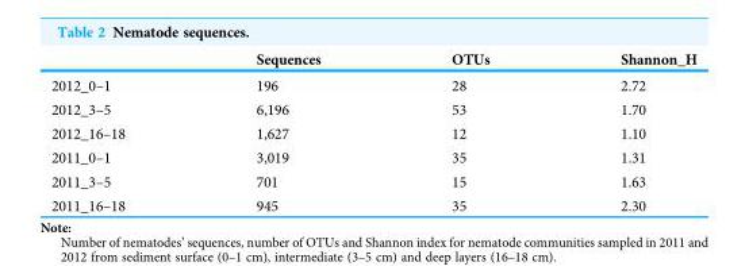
<table><thead><tr><td></td><td>Sequences</td><td>OTUs</td><td>Shannon_H</td></tr></thead><tbody><tr><td>2012_0–1</td><td>196</td><td>28</td><td>2.72</td></tr><tr><td>2012_3–5</td><td>6,196</td><td>53</td><td>1.70</td></tr><tr><td>2012_16–18</td><td>1,627</td><td>12</td><td>1.10</td></tr><tr><td>2011_0–1</td><td>3,019</td><td>35</td><td>1.31</td></tr><tr><td>2011_3–5</td><td>701</td><td>15</td><td>1.63</td></tr><tr><td>2011_16–18</td><td>945</td><td>35</td><td>2.30</td></tr></tbody></table>